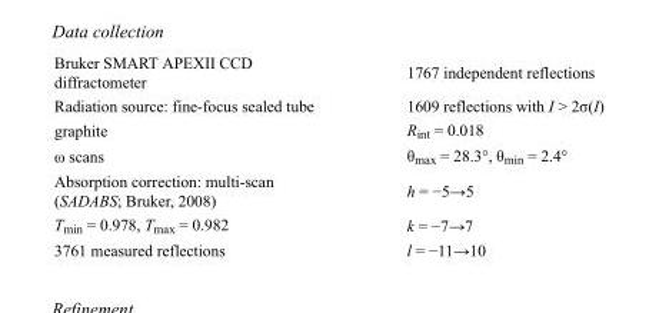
<table><tbody><tr><td>Bruker SMART APEXII CCD diffractometer</td><td>1767 independent reflections</td></tr><tr><td>Radiation source: fine-focus sealed tube</td><td>1609 reflections with I &gt; 2σ(I)</td></tr><tr><td>graphite</td><td>R<sub>int</sub> = 0.018</td></tr><tr><td>ω scans</td><td>θ<sub>max</sub> = 28.3°, θ<sub>min</sub> = 2.4°</td></tr><tr><td>Absorption correction: multi-scan (SADABS; Bruker, 2008)</td><td>h = −5→5</td></tr><tr><td>T<sub>min</sub> = 0.978, T<sub>max</sub> = 0.982</td><td>k = −7→7</td></tr><tr><td>3761 measured reflections</td><td>l = −11→10</td></tr></tbody></table>